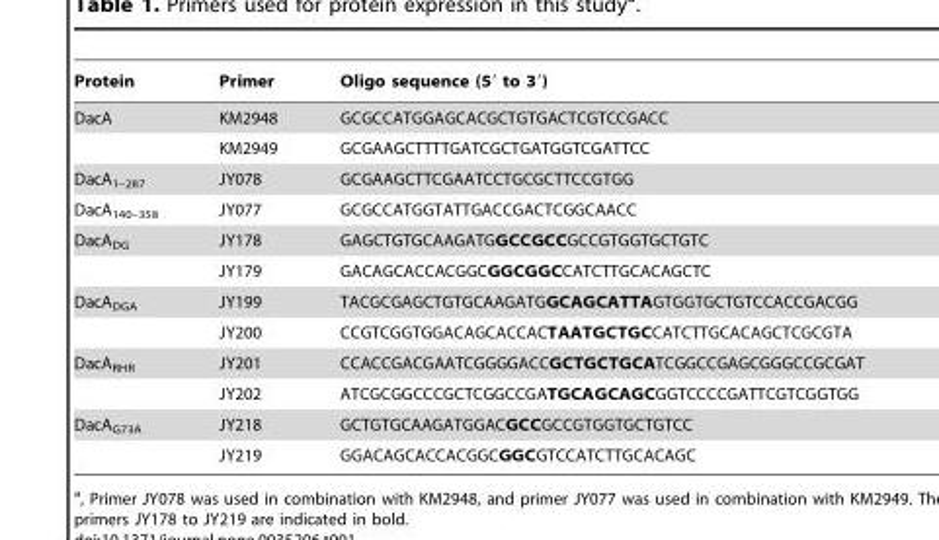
<table><thead><tr><td>Protein</td><td>Primer</td><td>Oligo sequence (5′ to 3′)</td></tr></thead><tbody><tr><td rowspan="2">DacA</td><td>KM2948</td><td>GCGCCATGGAGCACGCTGTGACTCGTCCGACC</td></tr><tr><td>KM2949</td><td>GCGAAGCTTTTGATCGCTGATGGTCGATTCC</td></tr><tr><td>DacA<sub>1–287</sub></td><td>JY078</td><td>GCGAAGCTTCGAATCCTGCGCTTCCGTGG</td></tr><tr><td>DacA<sub>140–358</sub></td><td>JY077</td><td>GCGCCATGGTATTGACCGACTCGGCAACC</td></tr><tr><td rowspan="2">DacA<sub>DG</sub></td><td>JY178</td><td>GAGCTGTGCAAGATGGCCGCCGCCGTGGTGCTGTC</td></tr><tr><td>JY179</td><td>GACAGCACCACGGCGGCGGCCATCTTGCACAGCTC</td></tr><tr><td rowspan="2">DacA<sub>DGA</sub></td><td>JY199</td><td>TACGCGAGCTGTGCAAGATGGCAGCATTAGTGGTGCTGTCCACCGACGG</td></tr><tr><td>JY200</td><td>CCGTCGGTGGACAGCACCACTAATGCTGCCATCTTGCACAGCTCGCGTA</td></tr><tr><td rowspan="2">DacA<sub>RHR</sub></td><td>JY201</td><td>CCACCGACGAATCGGGGACCGCTGCTGCATCGGCCGAGCGGGCCGCGAT</td></tr><tr><td>JY202</td><td>ATCGCGGCCCGCTCGGCCGATGCAGCAGCGGTCCCCGATTCGTCGGTGG</td></tr><tr><td rowspan="2">DacA<sub>G73A</sub></td><td>JY218</td><td>GCTGTGCAAGATGGACGCCGCCGTGGTGCTGTCC</td></tr><tr><td>JY219</td><td>GGACAGCACCACGGCGGCGTCCATCTTGCACAGC</td></tr></tbody></table>